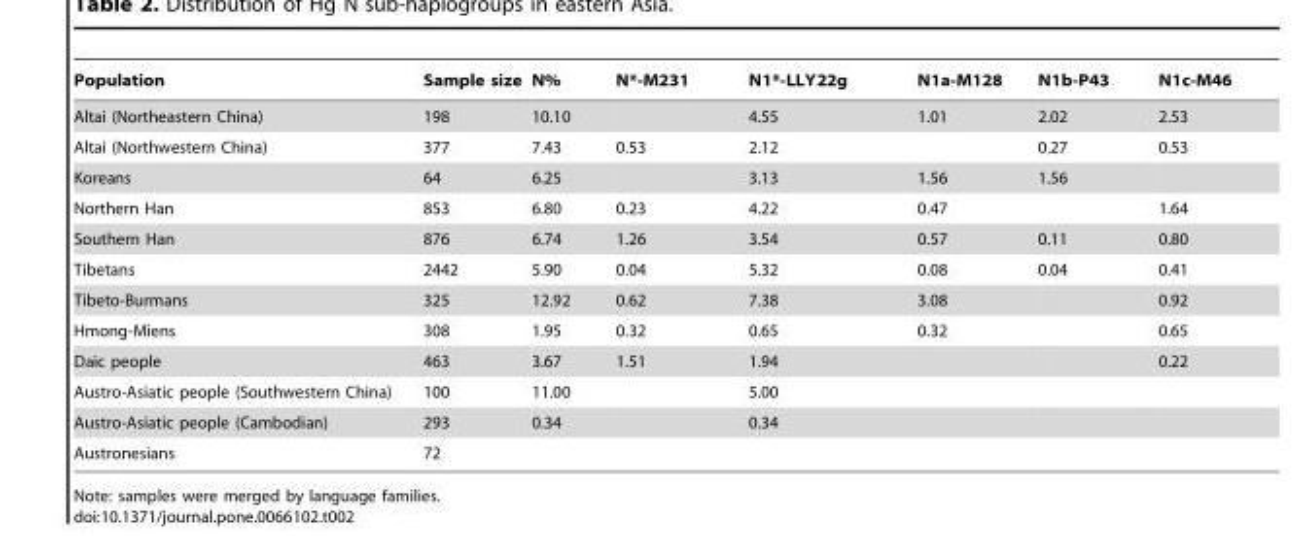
<table><thead><tr><td>Population</td><td>Sample size</td><td>N%</td><td>N*-M231</td><td>N1*-LLY22g</td><td>N1a-M128</td><td>N1b-P43</td><td>N1c-M46</td></tr></thead><tbody><tr><td>Altai (Northeastern China)</td><td>198</td><td>10.10</td><td></td><td>4.55</td><td>1.01</td><td>2.02</td><td>2.53</td></tr><tr><td>Altai (Northwestern China)</td><td>377</td><td>7.43</td><td>0.53</td><td>2.12</td><td></td><td>0.27</td><td>0.53</td></tr><tr><td>Koreans</td><td>64</td><td>6.25</td><td></td><td>3.13</td><td>1.56</td><td>1.56</td><td></td></tr><tr><td>Northern Han</td><td>853</td><td>6.80</td><td>0.23</td><td>4.22</td><td>0.47</td><td></td><td>1.64</td></tr><tr><td>Southern Han</td><td>876</td><td>6.74</td><td>1.26</td><td>3.54</td><td>0.57</td><td>0.11</td><td>0.80</td></tr><tr><td>Tibetans</td><td>2442</td><td>5.90</td><td>0.04</td><td>5.32</td><td>0.08</td><td>0.04</td><td>0.41</td></tr><tr><td>Tibeto-Burmans</td><td>325</td><td>12.92</td><td>0.62</td><td>7.38</td><td>3.08</td><td></td><td>0.92</td></tr><tr><td>Hmong-Miens</td><td>308</td><td>1.95</td><td>0.32</td><td>0.65</td><td>0.32</td><td></td><td>0.65</td></tr><tr><td>Daic people</td><td>463</td><td>3.67</td><td>1.51</td><td>1.94</td><td></td><td></td><td>0.22</td></tr><tr><td>Austro-Asiatic people (Southwestern China)</td><td>100</td><td>11.00</td><td></td><td>5.00</td><td></td><td></td><td></td></tr><tr><td>Austro-Asiatic people (Cambodian)</td><td>293</td><td>0.34</td><td></td><td>0.34</td><td></td><td></td><td></td></tr><tr><td>Austronesians</td><td>72</td><td></td><td></td><td></td><td></td><td></td><td></td></tr></tbody></table>